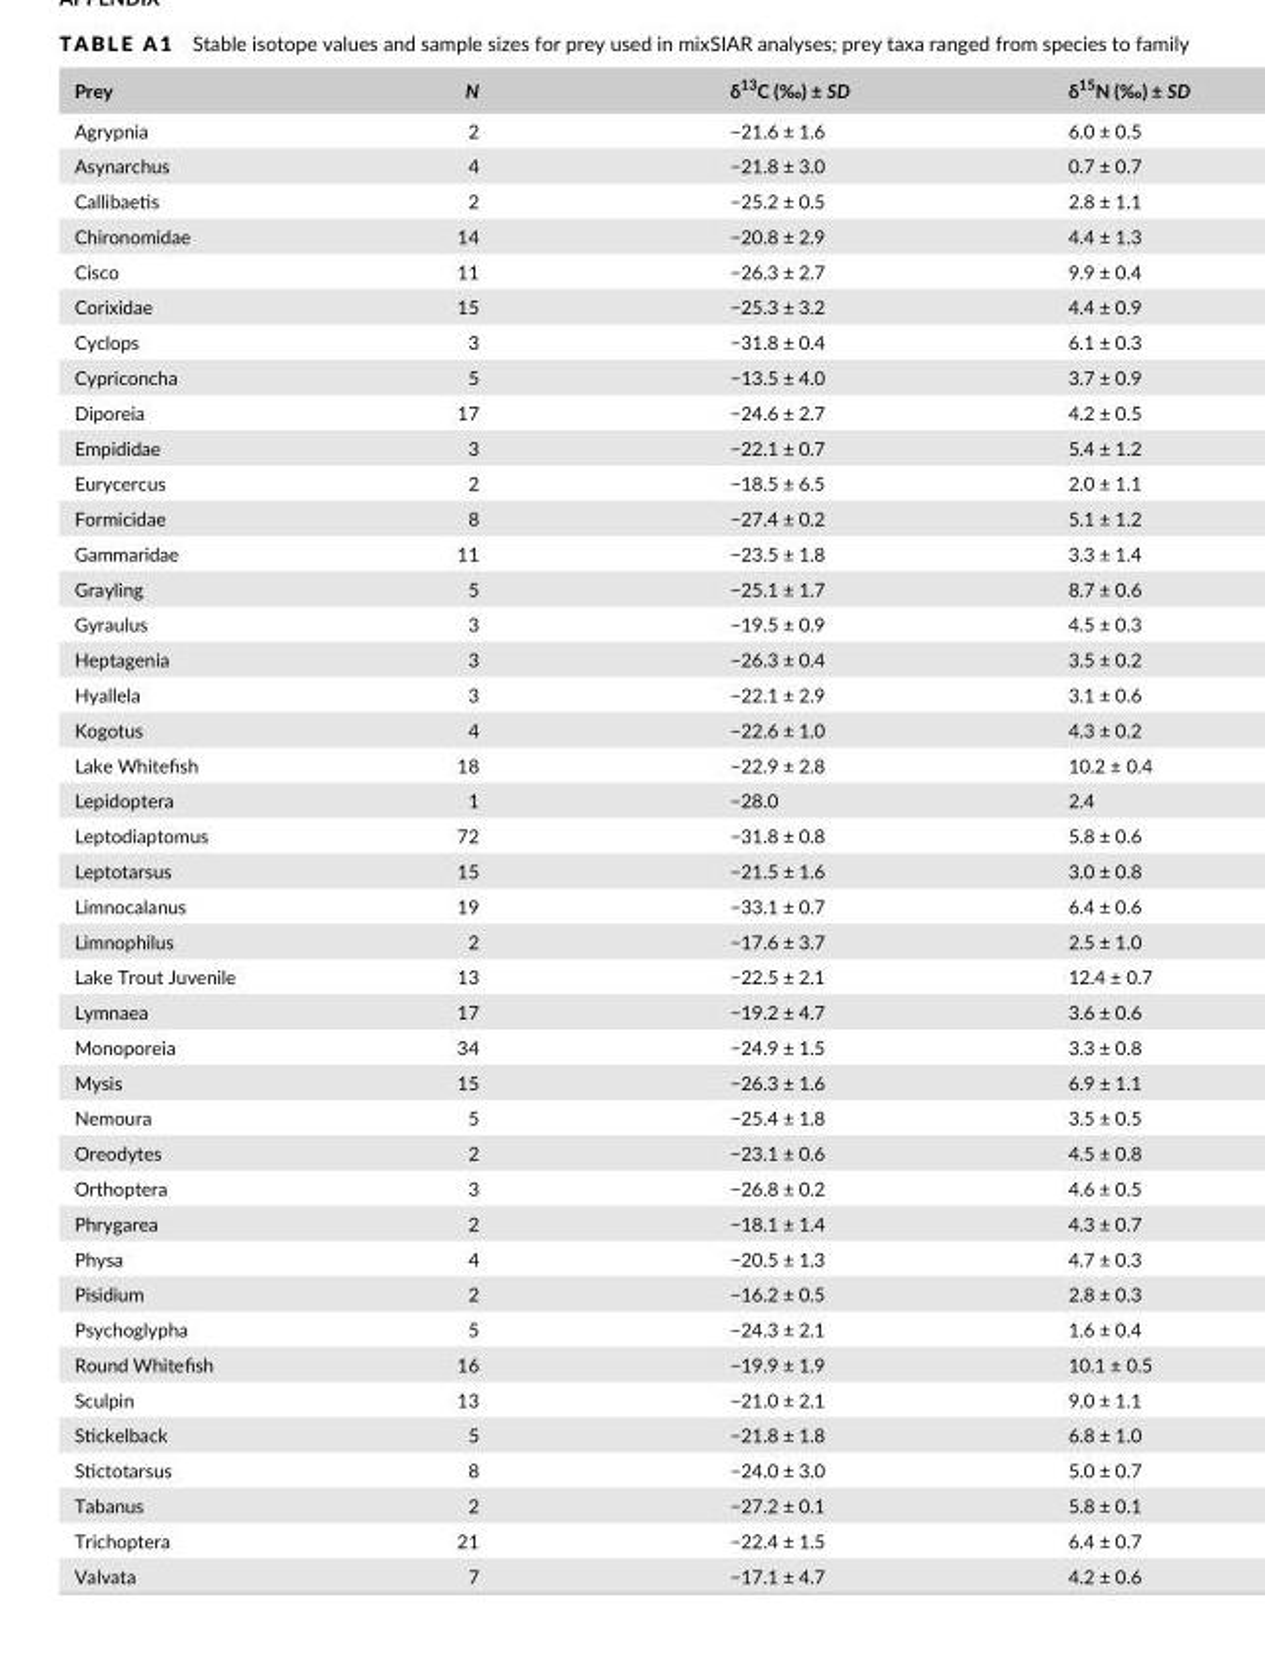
<table><thead><tr><td>Prey</td><td>N</td><td>δ<sup>13</sup>C (‰) ± SD</td><td>δ<sup>15</sup>N (‰) ± SD</td></tr></thead><tbody><tr><td>Agrypnia</td><td>2</td><td>−21.6 ± 1.6</td><td>6.0 ± 0.5</td></tr><tr><td>Asynarchus</td><td>4</td><td>−21.8 ± 3.0</td><td>0.7 ± 0.7</td></tr><tr><td>Callibaetis</td><td>2</td><td>−25.2 ± 0.5</td><td>2.8 ± 1.1</td></tr><tr><td>Chironomidae</td><td>14</td><td>−20.8 ± 2.9</td><td>4.4 ± 1.3</td></tr><tr><td>Cisco</td><td>11</td><td>−26.3 ± 2.7</td><td>9.9 ± 0.4</td></tr><tr><td>Corixidae</td><td>15</td><td>−25.3 ± 3.2</td><td>4.4 ± 0.9</td></tr><tr><td>Cyclops</td><td>3</td><td>−31.8 ± 0.4</td><td>6.1 ± 0.3</td></tr><tr><td>Cypriconcha</td><td>5</td><td>−13.5 ± 4.0</td><td>3.7 ± 0.9</td></tr><tr><td>Diporeia</td><td>17</td><td>−24.6 ± 2.7</td><td>4.2 ± 0.5</td></tr><tr><td>Empididae</td><td>3</td><td>−22.1 ± 0.7</td><td>5.4 ± 1.2</td></tr><tr><td>Eurycercus</td><td>2</td><td>−18.5 ± 6.5</td><td>2.0 ± 1.1</td></tr><tr><td>Formicidae</td><td>8</td><td>−27.4 ± 0.2</td><td>5.1 ± 1.2</td></tr><tr><td>Gammaridae</td><td>11</td><td>−23.5 ± 1.8</td><td>3.3 ± 1.4</td></tr><tr><td>Grayling</td><td>5</td><td>−25.1 ± 1.7</td><td>8.7 ± 0.6</td></tr><tr><td>Gyraulus</td><td>3</td><td>−19.5 ± 0.9</td><td>4.5 ± 0.3</td></tr><tr><td>Heptagenia</td><td>3</td><td>−26.3 ± 0.4</td><td>3.5 ± 0.2</td></tr><tr><td>Hyallela</td><td>3</td><td>−22.1 ± 2.9</td><td>3.1 ± 0.6</td></tr><tr><td>Kogotus</td><td>4</td><td>−22.6 ± 1.0</td><td>4.3 ± 0.2</td></tr><tr><td>Lake Whitefish</td><td>18</td><td>−22.9 ± 2.8</td><td>10.2 ± 0.4</td></tr><tr><td>Lepidoptera</td><td>1</td><td>−28.0</td><td>2.4</td></tr><tr><td>Leptodiaptomus</td><td>72</td><td>−31.8 ± 0.8</td><td>5.8 ± 0.6</td></tr><tr><td>Leptotarsus</td><td>15</td><td>−21.5 ± 1.6</td><td>3.0 ± 0.8</td></tr><tr><td>Limnocalanus</td><td>19</td><td>−33.1 ± 0.7</td><td>6.4 ± 0.6</td></tr><tr><td>Limnophilus</td><td>2</td><td>−17.6 ± 3.7</td><td>2.5 ± 1.0</td></tr><tr><td>Lake Trout Juvenile</td><td>13</td><td>−22.5 ± 2.1</td><td>12.4 ± 0.7</td></tr><tr><td>Lymnaea</td><td>17</td><td>−19.2 ± 4.7</td><td>3.6 ± 0.6</td></tr><tr><td>Monoporeia</td><td>34</td><td>−24.9 ± 1.5</td><td>3.3 ± 0.8</td></tr><tr><td>Mysis</td><td>15</td><td>−26.3 ± 1.6</td><td>6.9 ± 1.1</td></tr><tr><td>Nemoura</td><td>5</td><td>−25.4 ± 1.8</td><td>3.5 ± 0.5</td></tr><tr><td>Oreodytes</td><td>2</td><td>−23.1 ± 0.6</td><td>4.5 ± 0.8</td></tr><tr><td>Orthoptera</td><td>3</td><td>−26.8 ± 0.2</td><td>4.6 ± 0.5</td></tr><tr><td>Phrygarea</td><td>2</td><td>−18.1 ± 1.4</td><td>4.3 ± 0.7</td></tr><tr><td>Physa</td><td>4</td><td>−20.5 ± 1.3</td><td>4.7 ± 0.3</td></tr><tr><td>Pisidium</td><td>2</td><td>−16.2 ± 0.5</td><td>2.8 ± 0.3</td></tr><tr><td>Psychoglypha</td><td>5</td><td>−24.3 ± 2.1</td><td>1.6 ± 0.4</td></tr><tr><td>Round Whitefish</td><td>16</td><td>−19.9 ± 1.9</td><td>10.1 ± 0.5</td></tr><tr><td>Sculpin</td><td>13</td><td>−21.0 ± 2.1</td><td>9.0 ± 1.1</td></tr><tr><td>Stickelback</td><td>5</td><td>−21.8 ± 1.8</td><td>6.8 ± 1.0</td></tr><tr><td>Stictotarsus</td><td>8</td><td>−24.0 ± 3.0</td><td>5.0 ± 0.7</td></tr><tr><td>Tabanus</td><td>2</td><td>−27.2 ± 0.1</td><td>5.8 ± 0.1</td></tr><tr><td>Trichoptera</td><td>21</td><td>−22.4 ± 1.5</td><td>6.4 ± 0.7</td></tr><tr><td>Valvata</td><td>7</td><td>−17.1 ± 4.7</td><td>4.2 ± 0.6</td></tr></tbody></table>